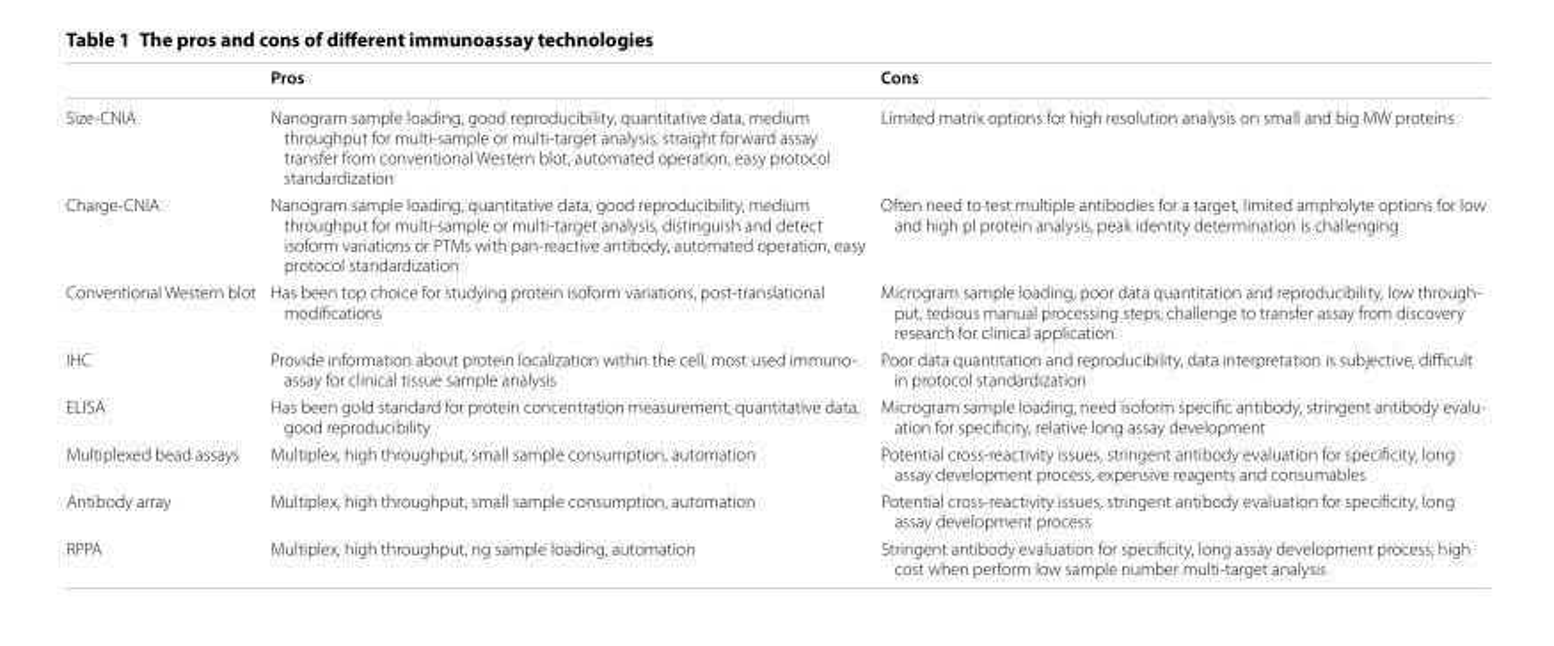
<table><thead><tr><td></td><td>Pros</td><td>Cons</td></tr></thead><tbody><tr><td>Size‑CNIA</td><td>Nanogram sample loading, good reproducibility, quantitative data, medium throughput for multi‑sample or multi‑target analysis, straight forward assay transfer from conventional Western blot, automated operation, easy protocol standardization</td><td>Limited matrix options for high resolution analysis on small and big MW proteins</td></tr><tr><td>Charge‑CNIA</td><td>Nanogram sample loading, quantitative data, good reproducibility, medium throughput for multi‑sample or multi‑target analysis, distinguish and detect isoform variations or PTMs with pan‑reactive antibody, automated operation, easy protocol standardization</td><td>Often need to test multiple antibodies for a target, limited ampholyte options for low and high pI protein analysis, peak identity determination is challenging</td></tr><tr><td>Conventional Western blot</td><td>Has been top choice for studying protein isoform variations, post‑translational modifications</td><td>Microgram sample loading, poor data quantitation and reproducibility, low through‑ put, tedious manual processing steps, challenge to transfer assay from discovery research for clinical application</td></tr><tr><td>IHC</td><td>Provide information about protein localization within the cell, most used immuno‑ assay for clinical tissue sample analysis</td><td>Poor data quantitation and reproducibility, data interpretation is subjective, difficult in protocol standardization</td></tr><tr><td>ELISA</td><td>Has been gold standard for protein concentration measurement, quantitative data, good reproducibility</td><td>Microgram sample loading, need isoform specific antibody, stringent antibody evalu‑ ation for specificity, relative long assay development</td></tr><tr><td>Multiplexed bead assays</td><td>Multiplex, high throughput, small sample consumption, automation</td><td>Potential cross‑reactivity issues, stringent antibody evaluation for specificity, long assay development process, expensive reagents and consumables</td></tr><tr><td>Antibody array</td><td>Multiplex, high throughput, small sample consumption, automation</td><td>Potential cross‑reactivity issues, stringent antibody evaluation for specificity, long assay development process</td></tr><tr><td>RPPA</td><td>Multiplex, high throughput, ng sample loading, automation</td><td>Stringent antibody evaluation for specificity, long assay development process, high cost when perform low sample number multi‑target analysis</td></tr></tbody></table>